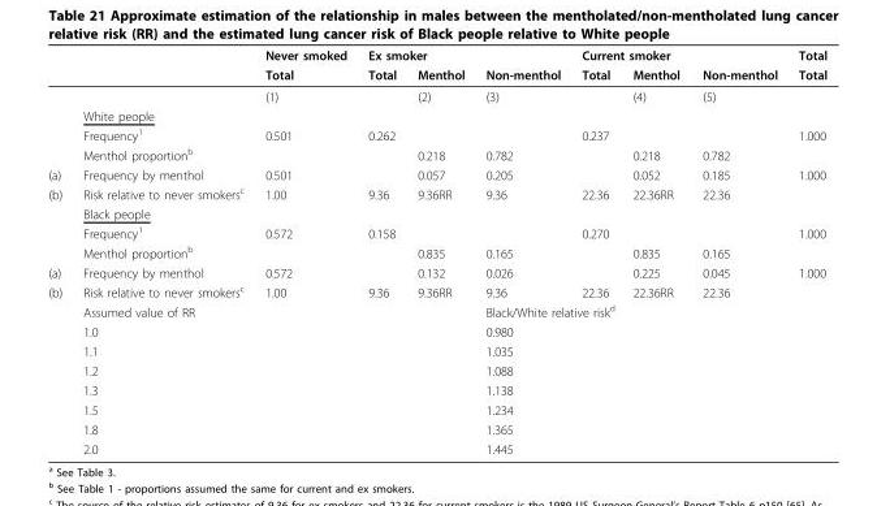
<table><thead><tr><td rowspan="2"></td><td rowspan="2"></td><td rowspan="2">Never smoked Total</td><td colspan="2">Ex smoker</td><td rowspan="2">Non-menthol</td><td colspan="2">Current smoker</td><td rowspan="2">Non-menthol</td><td rowspan="2">Total Total</td></tr><tr><td>Total</td><td>Menthol</td><td>Total</td><td>Menthol</td></tr></thead><tbody><tr><td></td><td></td><td>(1)</td><td></td><td>(2)</td><td>(3)</td><td></td><td>(4)</td><td>(5)</td><td></td></tr><tr><td></td><td>White people</td><td></td><td></td><td></td><td></td><td></td><td></td><td></td><td></td></tr><tr><td></td><td>Frequency<sup>1</sup></td><td>0.501</td><td>0.262</td><td></td><td></td><td>0.237</td><td></td><td></td><td>1.000</td></tr><tr><td></td><td>Menthol proportion<sup>b</sup></td><td></td><td></td><td>0.218</td><td>0.782</td><td></td><td>0.218</td><td>0.782</td><td></td></tr><tr><td>(a)</td><td>Frequency by menthol</td><td>0.501</td><td></td><td>0.057</td><td>0.205</td><td></td><td>0.052</td><td>0.185</td><td>1.000</td></tr><tr><td rowspan="4">(b)</td><td>Risk relative to never smokers<sup>c</sup></td><td>1.00</td><td>9.36</td><td>9.36RR</td><td>9.36</td><td>22.36</td><td>22.36RR</td><td>22.36</td><td></td></tr><tr><td>Black people</td><td></td><td></td><td></td><td></td><td></td><td></td><td></td><td></td></tr><tr><td>Frequency<sup>1</sup></td><td>0.572</td><td>0.158</td><td></td><td></td><td>0.270</td><td></td><td></td><td>1.000</td></tr><tr><td>Menthol proportion<sup>b</sup></td><td></td><td></td><td>0.835</td><td>0.165</td><td></td><td>0.835</td><td>0.165</td><td></td></tr><tr><td>(a)</td><td>Frequency by menthol</td><td>0.572</td><td></td><td>0.132</td><td>0.026</td><td></td><td>0.225</td><td>0.045</td><td>1.000</td></tr><tr><td rowspan="9">(b)</td><td>Risk relative to never smokers<sup>c</sup></td><td>1.00</td><td>9.36</td><td>9.36RR</td><td>9.36</td><td>22.36</td><td>22.36RR</td><td>22.36</td><td></td></tr><tr><td colspan="2">Assumed value of RR</td><td></td><td></td><td colspan="3">Black/White relative risk<sup>d</sup></td><td></td><td></td></tr><tr><td>1.0</td><td></td><td></td><td></td><td colspan="2">0.980</td><td></td><td></td><td></td></tr><tr><td>1.1</td><td></td><td></td><td></td><td colspan="2">1.035</td><td></td><td></td><td></td></tr><tr><td>1.2</td><td></td><td></td><td></td><td colspan="2">1.088</td><td></td><td></td><td></td></tr><tr><td>1.3</td><td></td><td></td><td></td><td colspan="2">1.138</td><td></td><td></td><td></td></tr><tr><td>1.5</td><td></td><td></td><td></td><td colspan="2">1.234</td><td></td><td></td><td></td></tr><tr><td>1.8</td><td></td><td></td><td></td><td colspan="2">1.365</td><td></td><td></td><td></td></tr><tr><td>2.0</td><td></td><td></td><td></td><td colspan="2">1.445</td><td></td><td></td><td></td></tr></tbody></table>